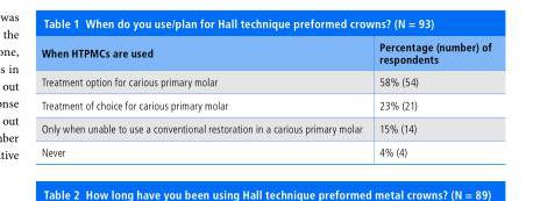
<table><thead><tr><td>When HTPMCs are used</td><td>Percentage (number) of respondents</td></tr></thead><tbody><tr><td>Treatment option for carious primary molar</td><td>58% (54)</td></tr><tr><td>Treatment of choice for carious primary molar</td><td>23% (21)</td></tr><tr><td>Only when unable to use a conventional restoration in a carious primary molar</td><td>15% (14)</td></tr><tr><td>Never</td><td>4% (4)</td></tr></tbody></table>